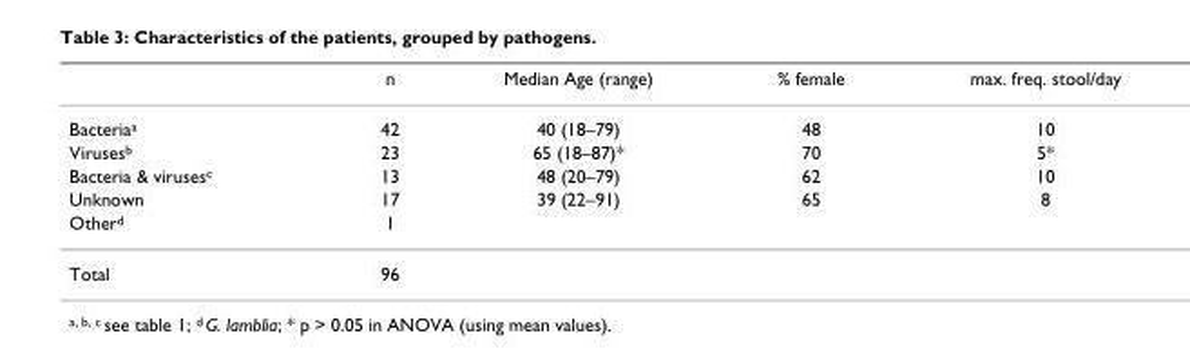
<table><thead><tr><td></td><td>n</td><td>Median Age (range)</td><td>% female</td><td>max. freq. stool/day</td></tr></thead><tbody><tr><td>Bacteria<sup>a</sup></td><td>42</td><td>40 (18–79)</td><td>48</td><td>10</td></tr><tr><td>Viruses<sup>b</sup></td><td>23</td><td>65 (18–87)*</td><td>70</td><td>5*</td></tr><tr><td>Bacteria &amp; viruses<sup>c</sup></td><td>13</td><td>48 (20–79)</td><td>62</td><td>10</td></tr><tr><td>Unknown</td><td>17</td><td>39 (22–91)</td><td>65</td><td>8</td></tr><tr><td>Other<sup>d</sup></td><td>1</td><td></td><td></td><td></td></tr><tr><td>Total</td><td>96</td><td></td><td></td><td></td></tr></tbody></table>